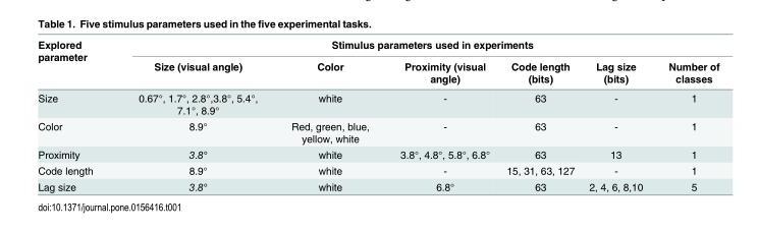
<table><thead><tr><td rowspan="2">Explored parameter</td><td colspan="6">Stimulus parameters used in experiments</td></tr><tr><td>Size (visual angle)</td><td>Color</td><td>Proximity (visual angle)</td><td>Code length (bits)</td><td>Lag size (bits)</td><td>Number of classes</td></tr></thead><tbody><tr><td>Size</td><td>0.67°, 1.7°, 2.8°,3.8°, 5.4°, 7.1°, 8.9°</td><td>white</td><td>-</td><td>63</td><td>-</td><td>1</td></tr><tr><td>Color</td><td>8.9°</td><td>Red, green, blue, yellow, white</td><td>-</td><td>63</td><td>-</td><td>1</td></tr><tr><td>Proximity</td><td>3.8°</td><td>white</td><td>3.8°, 4.8°, 5.8°, 6.8°</td><td>63</td><td>13</td><td>1</td></tr><tr><td>Code length</td><td>8.9°</td><td>white</td><td>-</td><td>15, 31, 63, 127</td><td>-</td><td>1</td></tr><tr><td>Lag size</td><td>3.8°</td><td>white</td><td>6.8°</td><td>63</td><td>2, 4, 6, 8,10</td><td>5</td></tr></tbody></table>